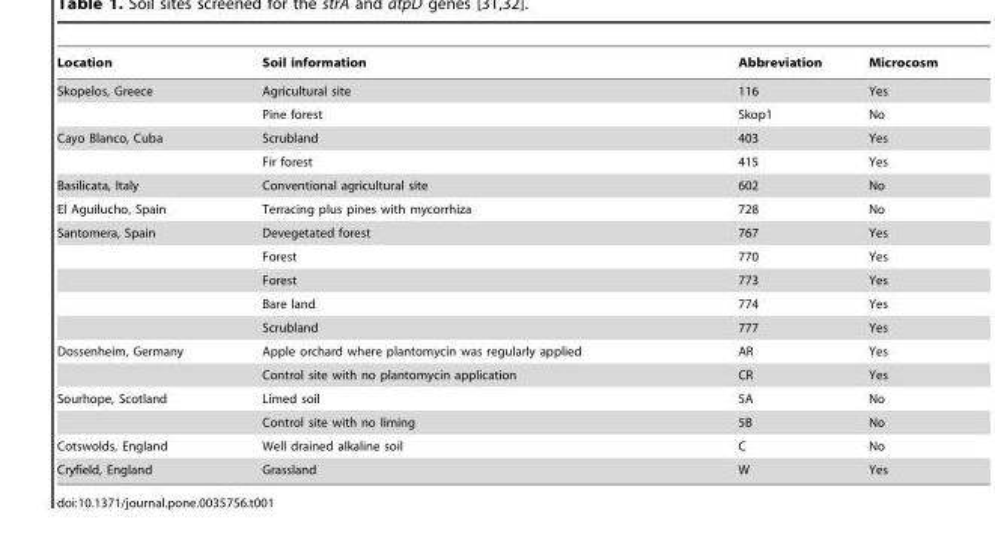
<table><thead><tr><td>Location</td><td>Soil information</td><td>Abbreviation</td><td>Microcosm</td></tr></thead><tbody><tr><td rowspan="2">Skopelos, Greece</td><td>Agricultural site</td><td>116</td><td>Yes</td></tr><tr><td>Pine forest</td><td>Skop1</td><td>No</td></tr><tr><td rowspan="2">Cayo Blanco, Cuba</td><td>Scrubland</td><td>403</td><td>Yes</td></tr><tr><td>Fir forest</td><td>415</td><td>Yes</td></tr><tr><td>Basilicata, Italy</td><td>Conventional agricultural site</td><td>602</td><td>No</td></tr><tr><td>El Aguilucho, Spain</td><td>Terracing plus pines with mycorrhiza</td><td>728</td><td>No</td></tr><tr><td rowspan="5">Santomera, Spain</td><td>Devegetated forest</td><td>767</td><td>Yes</td></tr><tr><td>Forest</td><td>770</td><td>Yes</td></tr><tr><td>Forest</td><td>773</td><td>Yes</td></tr><tr><td>Bare land</td><td>774</td><td>Yes</td></tr><tr><td>Scrubland</td><td>777</td><td>Yes</td></tr><tr><td rowspan="2">Dossenheim, Germany</td><td>Apple orchard where plantomycin was regularly applied</td><td>AR</td><td>Yes</td></tr><tr><td>Control site with no plantomycin application</td><td>CR</td><td>Yes</td></tr><tr><td rowspan="2">Sourhope, Scotland</td><td>Limed soil</td><td>5A</td><td>No</td></tr><tr><td>Control site with no liming</td><td>5B</td><td>No</td></tr><tr><td>Cotswolds, England</td><td>Well drained alkaline soil</td><td>C</td><td>No</td></tr><tr><td>Cryfield, England</td><td>Grassland</td><td>W</td><td>Yes</td></tr></tbody></table>